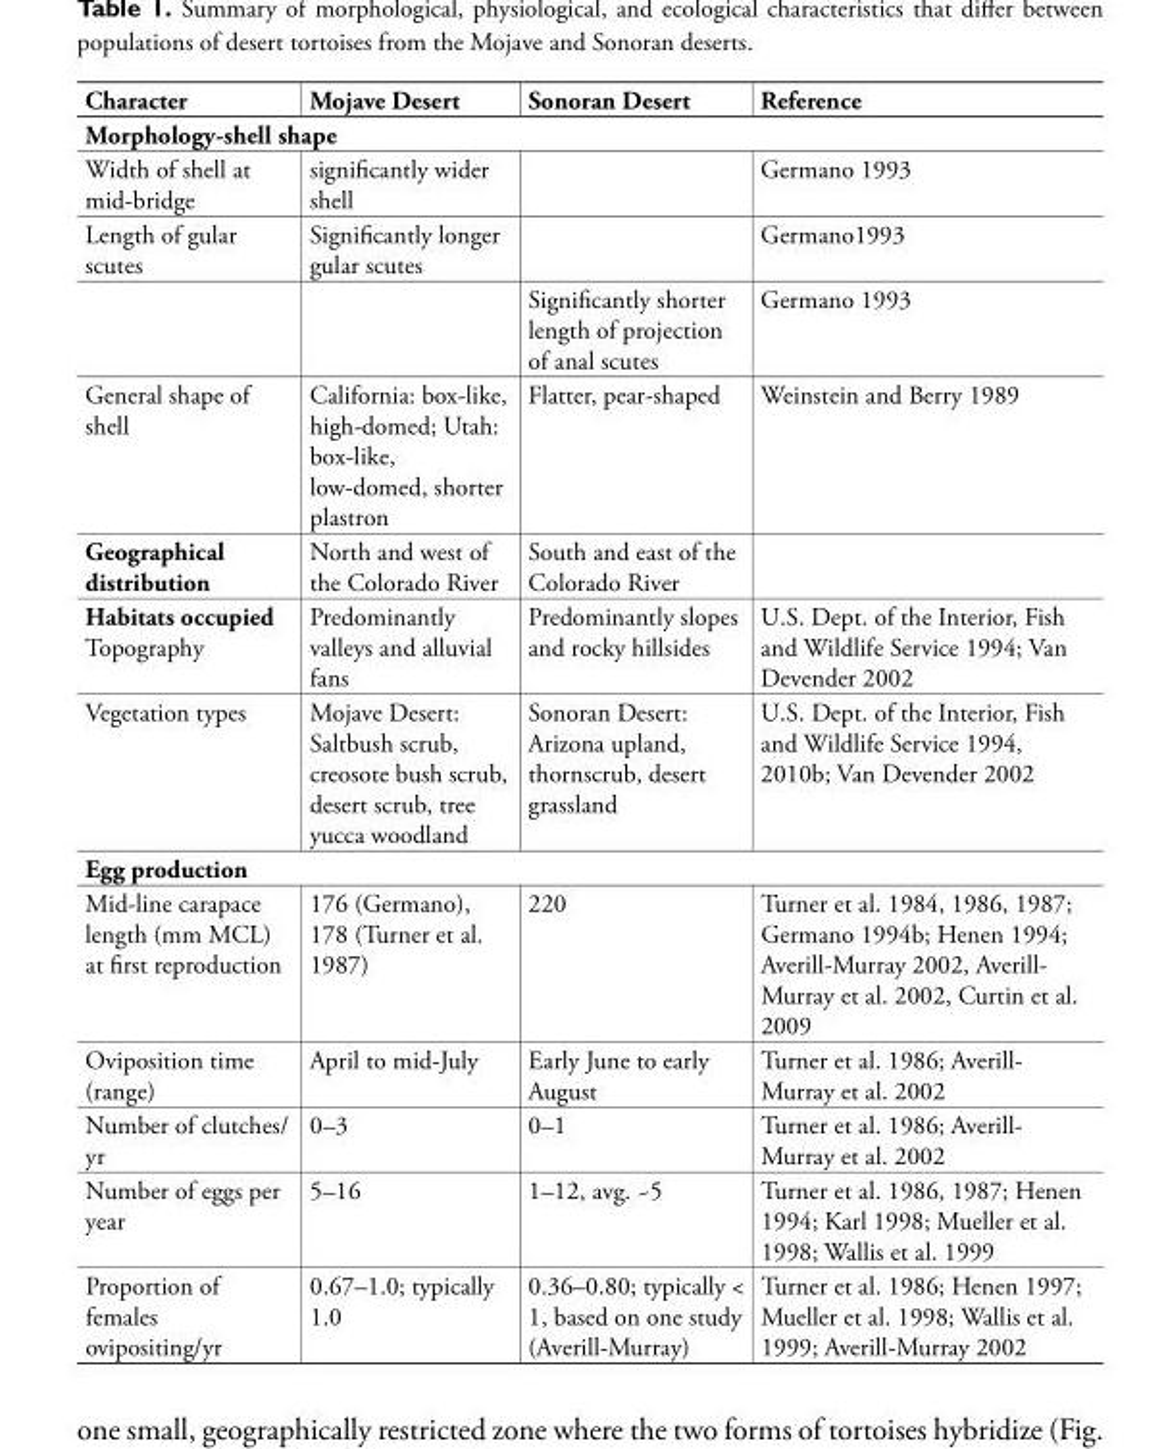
<table><thead><tr><td>Character</td><td>Mojave Desert</td><td>Sonoran Desert</td><td>Reference</td></tr></thead><tbody><tr><td colspan="4">Morphology-shell shape</td></tr><tr><td>Width of shell at mid‑bridge</td><td>significantly wider shell</td><td></td><td>Germano 1993</td></tr><tr><td rowspan="2">Length of gular scutes</td><td>Significantly longer gular scutes</td><td></td><td>Germano1993</td></tr><tr><td></td><td>Significantly shorter length of projection of anal scutes</td><td>Germano 1993</td></tr><tr><td>General shape of shell</td><td>California: box‑like, high‑domed; Utah: box‑like, low‑domed, shorter plastron</td><td>Flatter, pear‑shaped</td><td>Weinstein and Berry 1989</td></tr><tr><td>Geographical distribution</td><td>North and west of the Colorado River</td><td>South and east of the Colorado River</td><td></td></tr><tr><td>Habitats occupied Topography</td><td>Predominantly valleys and alluvial fans</td><td>Predominantly slopes and rocky hillsides</td><td>U.S. Dept. of the Interior, Fish and Wildlife Service 1994; Van Devender 2002</td></tr><tr><td>Vegetation types</td><td>Mojave Desert: Saltbush scrub, creosote bush scrub, desert scrub, tree yucca woodland</td><td>Sonoran Desert: Arizona upland, thornscrub, desert grassland</td><td>U.S. Dept. of the Interior, Fish and Wildlife Service 1994, 2010b; Van Devender 2002</td></tr><tr><td colspan="4">Egg production</td></tr><tr><td>Mid‑line carapace length (mm MCL) at first reproduction</td><td>176 (Germano), 178 (Turner et al. 1987)</td><td>220</td><td>Turner et al. 1984, 1986, 1987; Germano 1994b; Henen 1994; Averill‑Murray 2002, Averill‑ Murray et al. 2002, Curtin et al. 2009</td></tr><tr><td>Oviposition time (range)</td><td>April to mid‑July</td><td>Early June to early August</td><td>Turner et al. 1986; Averill‑ Murray et al. 2002</td></tr><tr><td>Number of clutches/ yr</td><td>0–3</td><td>0–1</td><td>Turner et al. 1986; Averill‑ Murray et al. 2002</td></tr><tr><td>Number of eggs per year</td><td>5–16</td><td>1–12, avg. ~5</td><td>Turner et al. 1986, 1987; Henen 1994; Karl 1998; Mueller et al. 1998; Wallis et al. 1999</td></tr><tr><td>Proportion of females ovipositing/yr</td><td>0.67–1.0; typically 1.0</td><td>0.36–0.80; typically &lt; 1, based on one study (Averill‑Murray)</td><td>Turner et al. 1986; Henen 1997; Mueller et al. 1998; Wallis et al. 1999; Averill‑Murray 2002</td></tr></tbody></table>